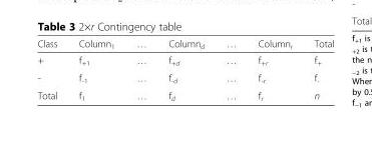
<table><thead><tr><td>Class</td><td>Column<sub>1</sub></td><td>…</td><td>Column<sub>d</sub></td><td>…</td><td>Column<sub>r</sub></td><td>Total</td></tr></thead><tbody><tr><td>+</td><td>f<sub>+1</sub></td><td>…</td><td>f<sub>+d</sub></td><td>…</td><td>f<sub>+r</sub></td><td>f<sub>+</sub></td></tr><tr><td>-</td><td>f<sub>-1</sub></td><td>…</td><td>f<sub>-d</sub></td><td>…</td><td>f<sub>-r</sub></td><td>f<sub>-</sub></td></tr><tr><td>Total</td><td>f<sub>1</sub></td><td>…</td><td>f<sub>d</sub></td><td>…</td><td>f<sub>r</sub></td><td>n</td></tr></tbody></table>